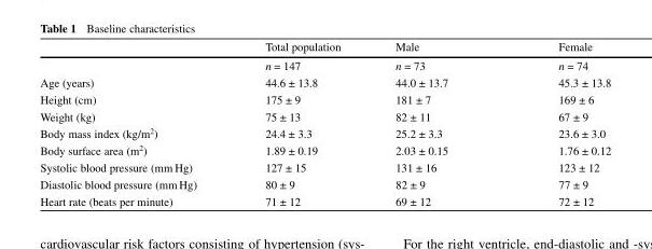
<table><thead><tr><td></td><td>Total population</td><td>Male</td><td>Female</td></tr></thead><tbody><tr><td></td><td>n = 147</td><td>n = 73</td><td>n = 74</td></tr><tr><td>Age (years)</td><td>44.6 ± 13.8</td><td>44.0 ± 13.7</td><td>45.3 ± 13.8</td></tr><tr><td>Height (cm)</td><td>175 ± 9</td><td>181 ± 7</td><td>169 ± 6</td></tr><tr><td>Weight (kg)</td><td>75 ± 13</td><td>82 ± 11</td><td>67 ± 9</td></tr><tr><td>Body mass index (kg/m<sup>2</sup>)</td><td>24.4 ± 3.3</td><td>25.2 ± 3.3</td><td>23.6 ± 3.0</td></tr><tr><td>Body surface area (m<sup>2</sup>)</td><td>1.89 ± 0.19</td><td>2.03 ± 0.15</td><td>1.76 ± 0.12</td></tr><tr><td>Systolic blood pressure (mm Hg)</td><td>127 ± 15</td><td>131 ± 16</td><td>123 ± 12</td></tr><tr><td>Diastolic blood pressure (mm Hg)</td><td>80 ± 9</td><td>82 ± 9</td><td>77 ± 9</td></tr><tr><td>Heart rate (beats per minute)</td><td>71 ± 12</td><td>69 ± 12</td><td>72 ± 12</td></tr></tbody></table>